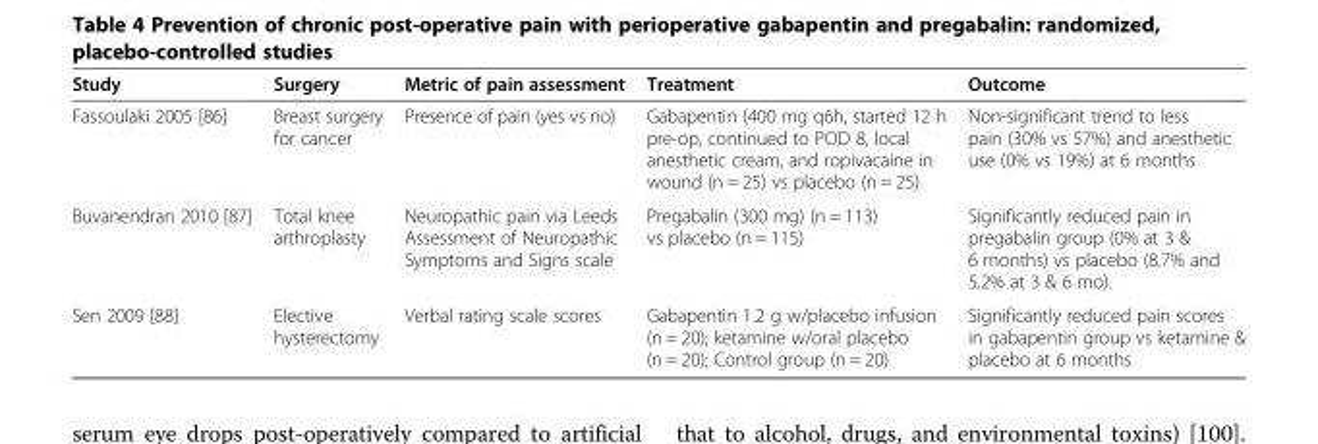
<table><thead><tr><td>Study</td><td>Surgery</td><td>Metric of pain assessment</td><td>Treatment</td><td>Outcome</td></tr></thead><tbody><tr><td>Fassoulaki 2005 [86]</td><td>Breast surgery for cancer</td><td>Presence of pain (yes vs no)</td><td>Gabapentin (400 mg q6h, started 12 h pre-op, continued to POD 8, local anesthetic cream, and ropivacaine in wound (n = 25) vs placebo (n = 25)</td><td>Non-significant trend to less pain (30% vs 57%) and anesthetic use (0% vs 19%) at 6 months</td></tr><tr><td>Buvanendran 2010 [87]</td><td>Total knee arthroplasty</td><td>Neuropathic pain via Leeds Assessment of Neuropathic Symptoms and Signs scale</td><td>Pregabalin (300 mg) (n = 113) vs placebo (n = 115)</td><td>Significantly reduced pain in pregabalin group (0% at 3 &amp; 6 months) vs placebo (8.7% and 5.2% at 3 &amp; 6 mo).</td></tr><tr><td>Sen 2009 [88]</td><td>Elective hysterectomy</td><td>Verbal rating scale scores</td><td>Gabapentin 1.2 g w/placebo infusion (n = 20); ketamine w/oral placebo (n = 20); Control group (n = 20)</td><td>Significantly reduced pain scores in gabapentin group vs ketamine &amp; placebo at 6 months</td></tr></tbody></table>